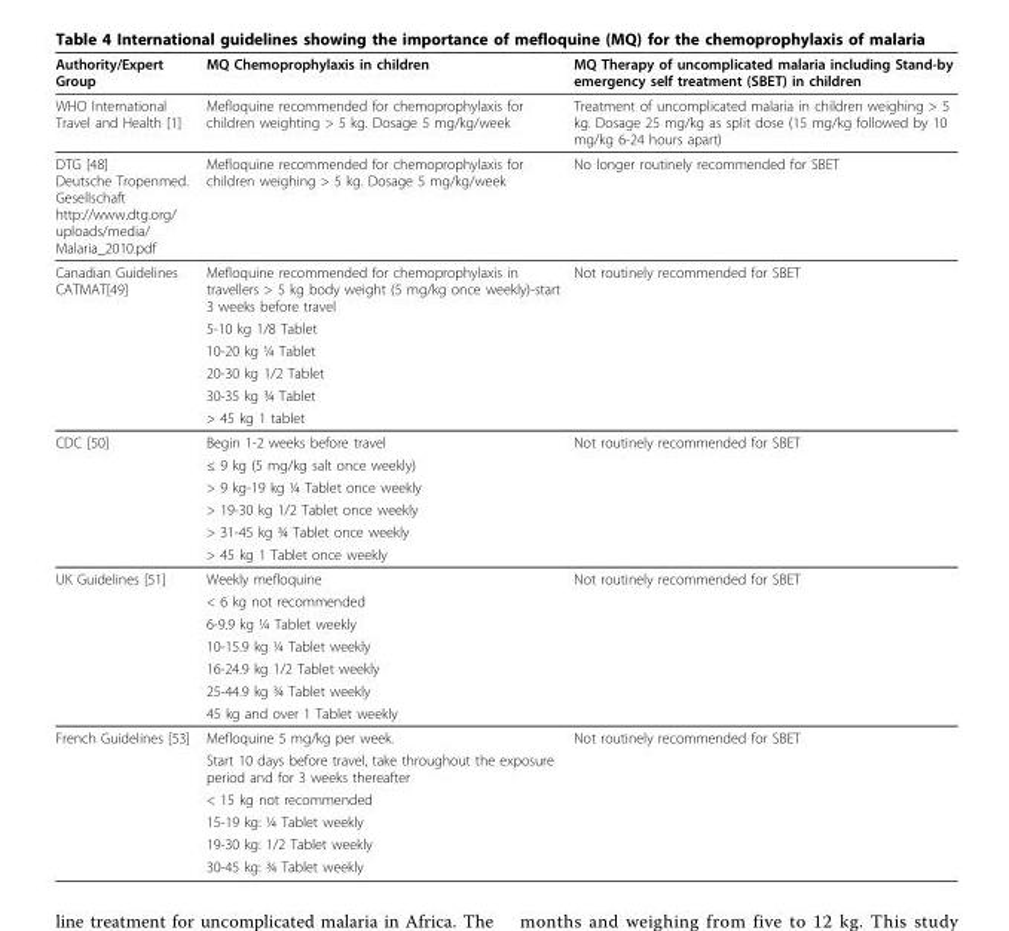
<table><thead><tr><td>Authority/Expert Group</td><td>MQ Chemoprophylaxis in children</td><td>MQ Therapy of uncomplicated malaria including Stand-by emergency self treatment (SBET) in children</td></tr></thead><tbody><tr><td>WHO International Travel and Health [1]</td><td>Mefloquine recommended for chemoprophylaxis for children weighting &gt; 5 kg. Dosage 5 mg/kg/week</td><td>Treatment of uncomplicated malaria in children weighing &gt; 5 kg. Dosage 25 mg/kg as split dose (15 mg/kg followed by 10 mg/kg 6-24 hours apart)</td></tr><tr><td>DTG [48] Deutsche Tropenmed. Gesellschaft http://www.dtg.org/ uploads/media/ Malaria_2010.pdf</td><td>Mefloquine recommended for chemoprophylaxis for children weighing &gt; 5 kg. Dosage 5 mg/kg/week</td><td>No longer routinely recommended for SBET</td></tr><tr><td rowspan="6">Canadian Guidelines CATMAT[49]</td><td>Mefloquine recommended for chemoprophylaxis in travellers &gt; 5 kg body weight (5 mg/kg once weekly)-start 3 weeks before travel</td><td>Not routinely recommended for SBET</td></tr><tr><td>5-10 kg 1/8 Tablet</td><td></td></tr><tr><td>10-20 kg ¼ Tablet</td><td></td></tr><tr><td>20-30 kg 1/2 Tablet</td><td></td></tr><tr><td>30-35 kg ¾ Tablet</td><td></td></tr><tr><td>&gt; 45 kg 1 tablet</td><td></td></tr><tr><td rowspan="6">CDC [50]</td><td>Begin 1-2 weeks before travel</td><td>Not routinely recommended for SBET</td></tr><tr><td>≤ 9 kg (5 mg/kg salt once weekly)</td><td></td></tr><tr><td>&gt; 9 kg-19 kg ¼ Tablet once weekly</td><td></td></tr><tr><td>&gt; 19-30 kg 1/2 Tablet once weekly</td><td></td></tr><tr><td>&gt; 31-45 kg ¾ Tablet once weekly</td><td></td></tr><tr><td>&gt; 45 kg 1 Tablet once weekly</td><td></td></tr><tr><td rowspan="7">UK Guidelines [51]</td><td>Weekly mefloquine</td><td>Not routinely recommended for SBET</td></tr><tr><td>&lt; 6 kg not recommended</td><td></td></tr><tr><td>6-9.9 kg ¼ Tablet weekly</td><td></td></tr><tr><td>10-15.9 kg ¼ Tablet weekly</td><td></td></tr><tr><td>16-24.9 kg 1/2 Tablet weekly</td><td></td></tr><tr><td>25-44.9 kg ¾ Tablet weekly</td><td></td></tr><tr><td>45 kg and over 1 Tablet weekly</td><td></td></tr><tr><td rowspan="6">French Guidelines [53]</td><td>Mefloquine 5 mg/kg per week.</td><td>Not routinely recommended for SBET</td></tr><tr><td>Start 10 days before travel, take throughout the exposure period and for 3 weeks thereafter</td><td></td></tr><tr><td>&lt; 15 kg not recommended</td><td></td></tr><tr><td>15-19 kg: ¼ Tablet weekly</td><td></td></tr><tr><td>19-30 kg: 1/2 Tablet weekly</td><td></td></tr><tr><td>30-45 kg: ¾ Tablet weekly</td><td></td></tr></tbody></table>